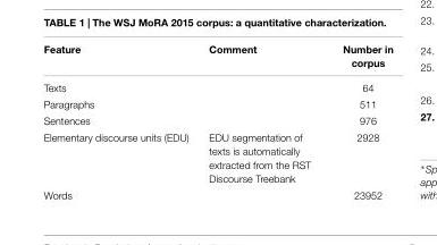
<table><thead><tr><td>Feature</td><td>Comment</td><td>Number in corpus</td></tr></thead><tbody><tr><td>Texts</td><td></td><td>64</td></tr><tr><td>Paragraphs</td><td></td><td>511</td></tr><tr><td>Sentences</td><td></td><td>976</td></tr><tr><td>Elementary discourse units (EDU)</td><td>EDU segmentation of texts is automatically extracted from the RST Discourse Treebank</td><td>2928</td></tr><tr><td>Words</td><td></td><td>23952</td></tr></tbody></table>